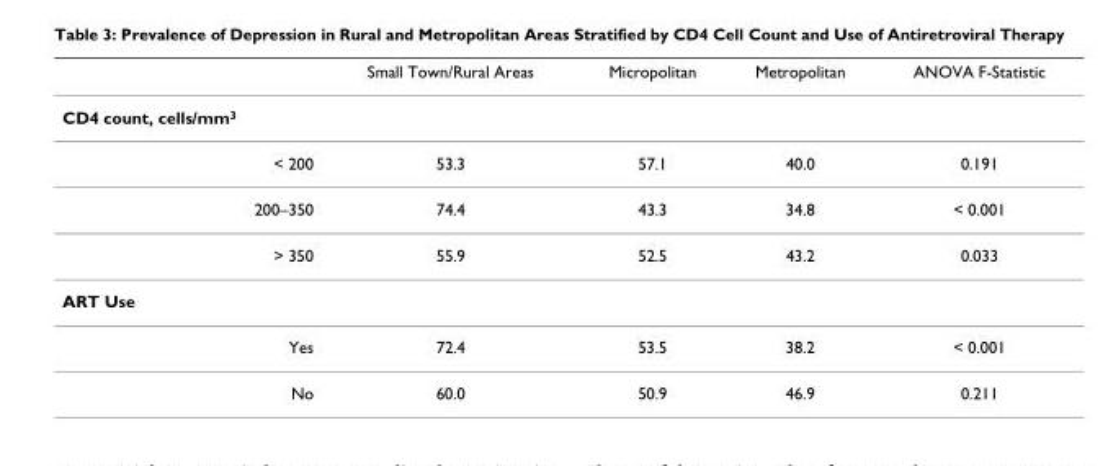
<table><thead><tr><td></td><td>Small Town/Rural Areas</td><td>Micropolitan</td><td>Metropolitan</td><td>ANOVA F-Statistic</td></tr></thead><tbody><tr><td colspan="5">CD4 count, cells/mm<sup>3</sup></td></tr><tr><td>&lt; 200</td><td>53.3</td><td>57.1</td><td>40.0</td><td>0.191</td></tr><tr><td>200–350</td><td>74.4</td><td>43.3</td><td>34.8</td><td>&lt; 0.001</td></tr><tr><td>&gt; 350</td><td>55.9</td><td>52.5</td><td>43.2</td><td>0.033</td></tr><tr><td colspan="5">ART Use</td></tr><tr><td>Yes</td><td>72.4</td><td>53.5</td><td>38.2</td><td>&lt; 0.001</td></tr><tr><td>No</td><td>60.0</td><td>50.9</td><td>46.9</td><td>0.211</td></tr></tbody></table>